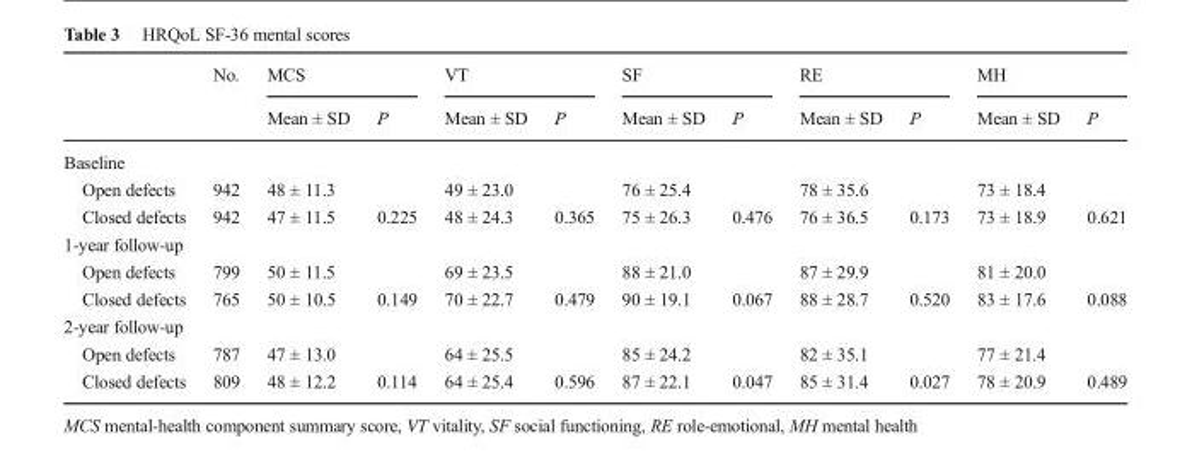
<table><thead><tr><td rowspan="2"></td><td rowspan="2">No.</td><td colspan="2">MCS</td><td colspan="2">VT</td><td colspan="2">SF</td><td colspan="2">RE</td><td colspan="2">MH</td></tr><tr><td>Mean ± SD</td><td>P</td><td>Mean ± SD</td><td>P</td><td>Mean ± SD</td><td>P</td><td>Mean ± SD</td><td>P</td><td>Mean ± SD</td><td>P</td></tr></thead><tbody><tr><td colspan="12">Baseline</td></tr><tr><td>Open defects</td><td>942</td><td>48 ± 11.3</td><td></td><td>49 ± 23.0</td><td></td><td>76 ± 25.4</td><td></td><td>78 ± 35.6</td><td></td><td>73 ± 18.4</td><td></td></tr><tr><td>Closed defects</td><td>942</td><td>47 ± 11.5</td><td>0.225</td><td>48 ± 24.3</td><td>0.365</td><td>75 ± 26.3</td><td>0.476</td><td>76 ± 36.5</td><td>0.173</td><td>73 ± 18.9</td><td>0.621</td></tr><tr><td colspan="12">1-year follow-up</td></tr><tr><td>Open defects</td><td>799</td><td>50 ± 11.5</td><td></td><td>69 ± 23.5</td><td></td><td>88 ± 21.0</td><td></td><td>87 ± 29.9</td><td></td><td>81 ± 20.0</td><td></td></tr><tr><td>Closed defects</td><td>765</td><td>50 ± 10.5</td><td>0.149</td><td>70 ± 22.7</td><td>0.479</td><td>90 ± 19.1</td><td>0.067</td><td>88 ± 28.7</td><td>0.520</td><td>83 ± 17.6</td><td>0.088</td></tr><tr><td colspan="12">2-year follow-up</td></tr><tr><td>Open defects</td><td>787</td><td>47 ± 13.0</td><td></td><td>64 ± 25.5</td><td></td><td>85 ± 24.2</td><td></td><td>82 ± 35.1</td><td></td><td>77 ± 21.4</td><td></td></tr><tr><td>Closed defects</td><td>809</td><td>48 ± 12.2</td><td>0.114</td><td>64 ± 25.4</td><td>0.596</td><td>87 ± 22.1</td><td>0.047</td><td>85 ± 31.4</td><td>0.027</td><td>78 ± 20.9</td><td>0.489</td></tr></tbody></table>